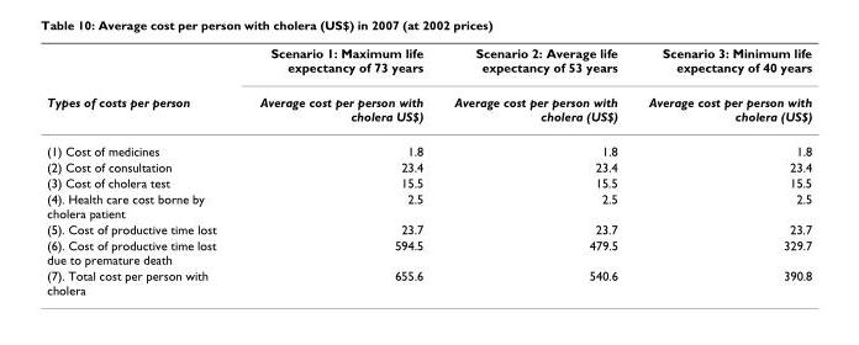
<table><thead><tr><td rowspan="2">Types of costs per person</td><td rowspan="2">Scenario 1: Maximum life expectancy of 73 years Average cost per person with cholera US$)</td><td rowspan="2">Scenario 2: Average life expectancy of 53 years Average cost per person with cholera (US$)</td><td rowspan="2">Scenario 3: Minimum life expectancy of 40 years Average cost per person with cholera (US$)</td></tr><tr></tr></thead><tbody><tr><td>(1) Cost of medicines</td><td>1.8</td><td>1.8</td><td>1.8</td></tr><tr><td>(2) Cost of consultation</td><td>23.4</td><td>23.4</td><td>23.4</td></tr><tr><td>(3) Cost of cholera test</td><td>15.5</td><td>15.5</td><td>15.5</td></tr><tr><td>(4). Health care cost borne by cholera patient</td><td>2.5</td><td>2.5</td><td>2.5</td></tr><tr><td>(5). Cost of productive time lost</td><td>23.7</td><td>23.7</td><td>23.7</td></tr><tr><td>(6). Cost of productive time lost due to premature death</td><td>594.5</td><td>479.5</td><td>329.7</td></tr><tr><td>(7). Total cost per person with cholera</td><td>655.6</td><td>540.6</td><td>390.8</td></tr></tbody></table>